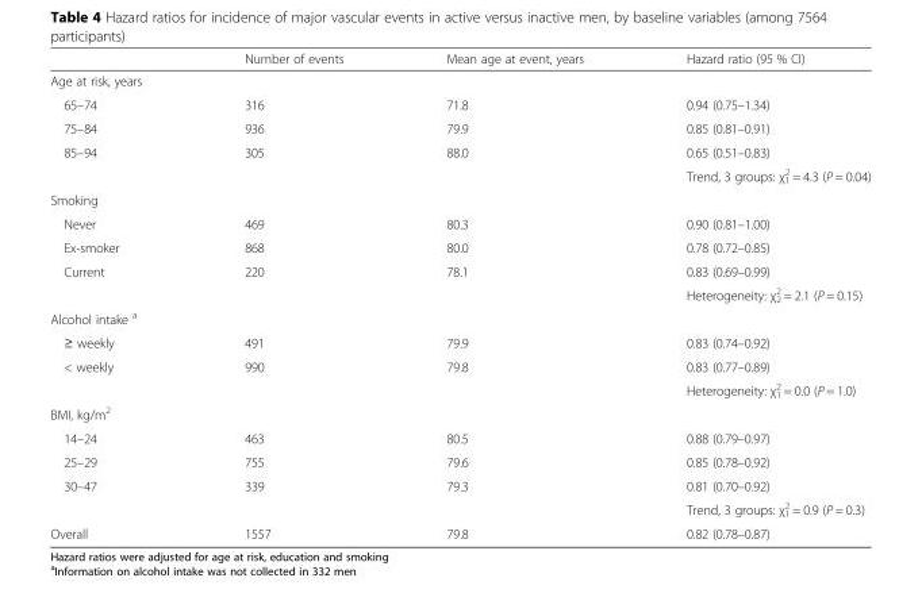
<table><thead><tr><td></td><td>Number of events</td><td>Mean age at event, years</td><td>Hazard ratio (95 % CI)</td></tr></thead><tbody><tr><td colspan="4">Age at risk, years</td></tr><tr><td>65–74</td><td>316</td><td>71.8</td><td>0.94 (0.75–1.34)</td></tr><tr><td>75–84</td><td>936</td><td>79.9</td><td>0.85 (0.81–0.91)</td></tr><tr><td rowspan="2">85–94</td><td>305</td><td>88.0</td><td>0.65 (0.51–0.83)</td></tr><tr><td></td><td></td><td>Trend, 3 groups: χ<sup>2</sup> <sub>1</sub> = 4.3 (P = 0.04)</td></tr><tr><td colspan="4">Smoking</td></tr><tr><td>Never</td><td>469</td><td>80.3</td><td>0.90 (0.81–1.00)</td></tr><tr><td>Ex-smoker</td><td>868</td><td>80.0</td><td>0.78 (0.72–0.85)</td></tr><tr><td rowspan="2">Current</td><td>220</td><td>78.1</td><td>0.83 (0.69–0.99)</td></tr><tr><td></td><td></td><td>Heterogeneity: χ<sup>2</sup> <sub>2</sub> = 2.1 (P = 0.15)</td></tr><tr><td colspan="4">Alcohol intake <sup>a</sup></td></tr><tr><td>≥ weekly</td><td>491</td><td>79.9</td><td>0.83 (0.74–0.92)</td></tr><tr><td rowspan="2">&lt; weekly</td><td>990</td><td>79.8</td><td>0.83 (0.77–0.89)</td></tr><tr><td></td><td></td><td>Heterogeneity: χ<sup>2</sup> <sub>1</sub> = 0.0 (P = 1.0)</td></tr><tr><td colspan="4">BMI, kg/m<sup>2</sup></td></tr><tr><td>14–24</td><td>463</td><td>80.5</td><td>0.88 (0.79–0.97)</td></tr><tr><td>25–29</td><td>755</td><td>79.6</td><td>0.85 (0.78–0.92)</td></tr><tr><td rowspan="2">30–47</td><td>339</td><td>79.3</td><td>0.81 (0.70–0.92)</td></tr><tr><td></td><td></td><td>Trend, 3 groups: χ<sup>2</sup> <sub>1</sub> = 0.9 (P = 0.3)</td></tr><tr><td>Overall</td><td>1557</td><td>79.8</td><td>0.82 (0.78–0.87)</td></tr></tbody></table>